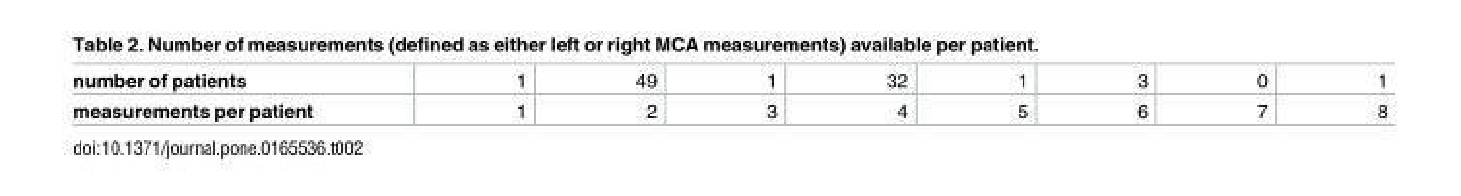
<table><tbody><tr><td>number of patients</td><td>1</td><td>49</td><td>1</td><td>32</td><td>1</td><td>3</td><td>0</td><td>1</td></tr><tr><td>measurements per patient</td><td>1</td><td>2</td><td>3</td><td>4</td><td>5</td><td>6</td><td>7</td><td>8</td></tr></tbody></table>